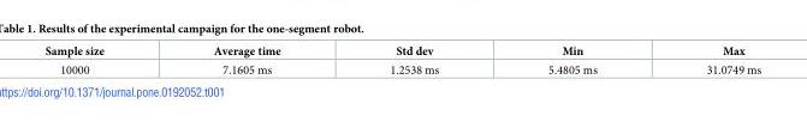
<table><thead><tr><td>Sample size</td><td>Average time</td><td>Std dev</td><td>Min</td><td>Max</td></tr></thead><tbody><tr><td>10000</td><td>7.1605 ms</td><td>1.2538 ms</td><td>5.4805 ms</td><td>31.0749 ms</td></tr></tbody></table>